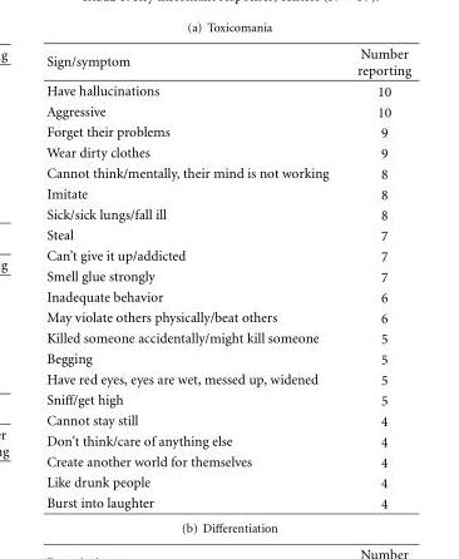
<table><thead><tr><td>Sign/symptom</td><td>Number reporting</td></tr></thead><tbody><tr><td>Have hallucinations</td><td>10</td></tr><tr><td>Aggressive</td><td>10</td></tr><tr><td>Forget their problems</td><td>9</td></tr><tr><td>Wear dirty clothes</td><td>9</td></tr><tr><td>Cannot think/mentally, their mind is not working</td><td>8</td></tr><tr><td>Imitate</td><td>8</td></tr><tr><td>Sick/sick lungs/fall ill</td><td>8</td></tr><tr><td>Steal</td><td>7</td></tr><tr><td>Can’t give it up/addicted</td><td>7</td></tr><tr><td>Smell glue strongly</td><td>7</td></tr><tr><td>Inadequate behavior</td><td>6</td></tr><tr><td>May violate others physically/beat others</td><td>6</td></tr><tr><td>Killed someone accidentally/might kill someone</td><td>5</td></tr><tr><td>Begging</td><td>5</td></tr><tr><td>Have red eyes, eyes are wet, messed up, widened</td><td>5</td></tr><tr><td>Sniff/get high</td><td>5</td></tr><tr><td>Cannot stay still</td><td>4</td></tr><tr><td>Don’t think/care of anything else</td><td>4</td></tr><tr><td>Create another world for themselves</td><td>4</td></tr><tr><td>Like drunk people</td><td>4</td></tr><tr><td>Burst into laughter</td><td>4</td></tr></tbody></table>